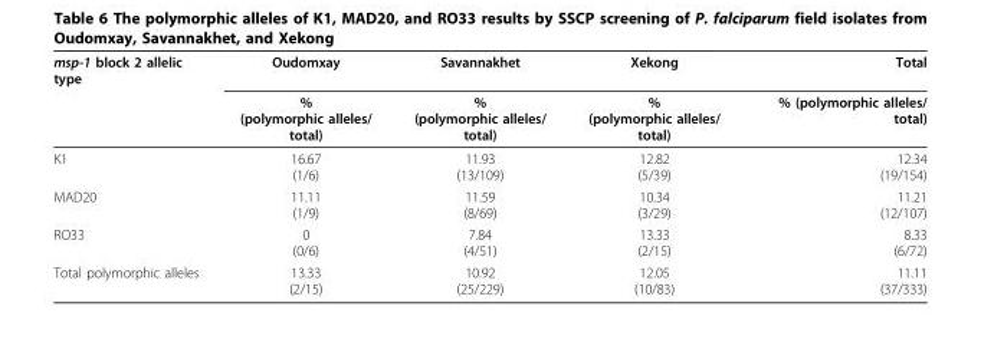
<table><thead><tr><td rowspan="2">msp-1 block 2 allelic type</td><td rowspan="2">Oudomxay % (polymorphic alleles/ total)</td><td rowspan="2">Savannakhet % (polymorphic alleles/ total)</td><td rowspan="2">Xekong % (polymorphic alleles/ total)</td><td rowspan="2">Total % (polymorphic alleles/ total)</td></tr><tr></tr></thead><tbody><tr><td>K1</td><td>16.67 (1/6)</td><td>11.93 (13/109)</td><td>12.82 (5/39)</td><td>12.34 (19/154)</td></tr><tr><td>MAD20</td><td>11.11 (1/9)</td><td>11.59 (8/69)</td><td>10.34 (3/29)</td><td>11.21 (12/107)</td></tr><tr><td>RO33</td><td>0 (0/6)</td><td>7.84 (4/51)</td><td>13.33 (2/15)</td><td>8.33 (6/72)</td></tr><tr><td>Total polymorphic alleles</td><td>13.33 (2/15)</td><td>10.92 (25/229)</td><td>12.05 (10/83)</td><td>11.11 (37/333)</td></tr></tbody></table>